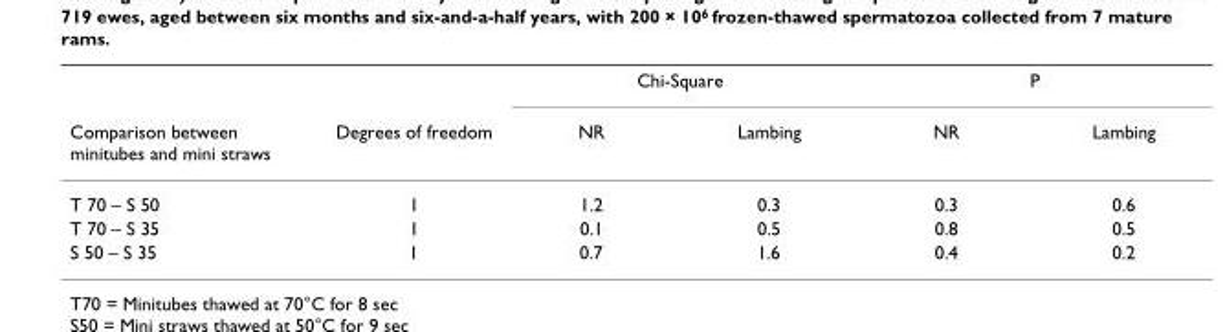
<table><thead><tr><td rowspan="2">Comparison between minitubes and mini straws</td><td rowspan="2">Degrees of freedom</td><td colspan="2">Chi-Square</td><td colspan="2">P</td></tr><tr><td>NR</td><td>Lambing</td><td>NR</td><td>Lambing</td></tr></thead><tbody><tr><td>T 70 – S 50</td><td>1</td><td>1.2</td><td>0.3</td><td>0.3</td><td>0.6</td></tr><tr><td>T 70 – S 35</td><td>1</td><td>0.1</td><td>0.5</td><td>0.8</td><td>0.5</td></tr><tr><td>S 50 – S 35</td><td>1</td><td>0.7</td><td>1.6</td><td>0.4</td><td>0.2</td></tr></tbody></table>